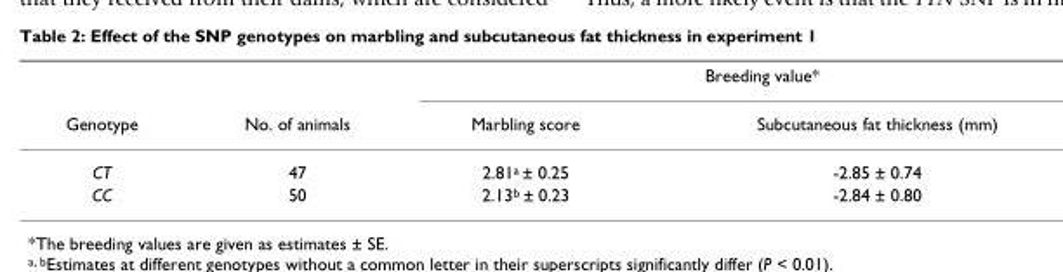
<table><thead><tr><td rowspan="2">Genotype</td><td rowspan="2">No. of animals</td><td colspan="2">Breeding value*</td></tr><tr><td>Marbling score</td><td>Subcutaneous fat thickness (mm)</td></tr></thead><tbody><tr><td>CT</td><td>47</td><td>2.81<sup>a</sup> ± 0.25</td><td>-2.85 ± 0.74</td></tr><tr><td>CC</td><td>50</td><td>2.13<sup>b</sup> ± 0.23</td><td>-2.84 ± 0.80</td></tr></tbody></table>